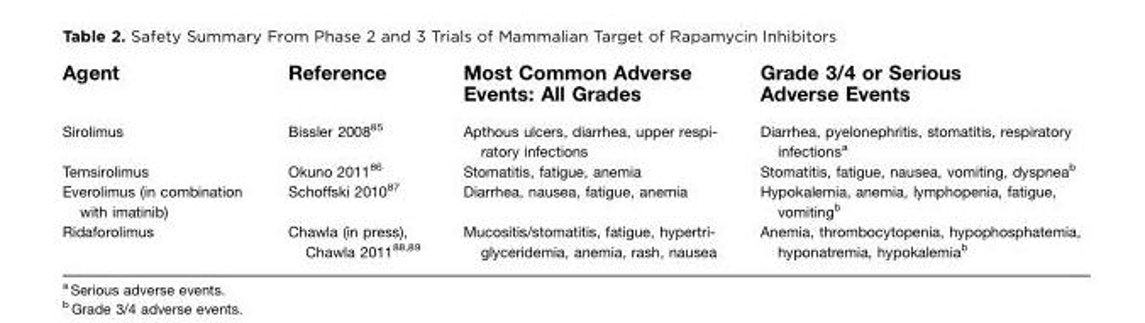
<table><thead><tr><td>Agent</td><td>Reference</td><td>Most Common Adverse Events: All Grades</td><td>Grade 3/4 or Serious Adverse Events</td></tr></thead><tbody><tr><td>Sirolimus</td><td>Bissler 2008<sup>85</sup></td><td>Apthous ulcers, diarrhea, upper respi- ratory infections</td><td>Diarrhea, pyelonephritis, stomatitis, respiratory infections<sup>a</sup></td></tr><tr><td>Temsirolimus</td><td>Okuno 2011<sup>86</sup></td><td>Stomatitis, fatigue, anemia</td><td>Stomatitis, fatigue, nausea, vomiting, dyspnea<sup>b</sup></td></tr><tr><td>Everolimus (in combination with imatinib)</td><td>Schoffski 2010<sup>87</sup></td><td>Diarrhea, nausea, fatigue, anemia</td><td>Hypokalemia, anemia, lymphopenia, fatigue, vomiting<sup>b</sup></td></tr><tr><td>Ridaforolimus</td><td>Chawla (in press), Chawla 2011<sup>88</sup>,<sup>89</sup></td><td>Mucositis/stomatitis, fatigue, hypertri- glyceridemia, anemia, rash, nausea</td><td>Anemia, thrombocytopenia, hypophosphatemia, hyponatremia, hypokalemia<sup>b</sup></td></tr></tbody></table>